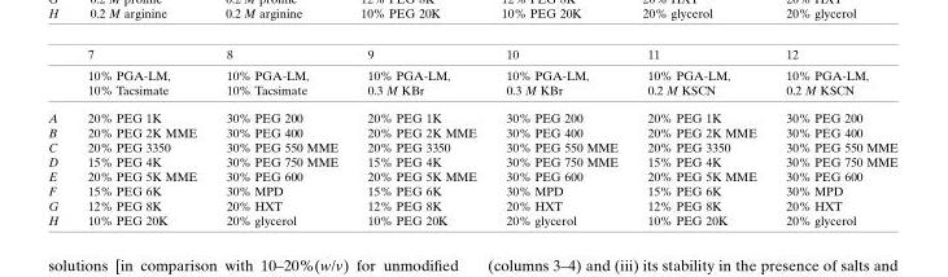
<table><thead><tr><td rowspan="2"></td><td rowspan="2">7 10% PGA-LM, 10% Tacsimate</td><td rowspan="2">8 10% PGA-LM, 10% Tacsimate</td><td rowspan="2">9 10% PGA-LM, 0.3 M KBr</td><td rowspan="2">10 10% PGA-LM, 0.3 M KBr</td><td rowspan="2">11 10% PGA-LM, 0.2 M KSCN</td><td rowspan="2">12 10% PGA-LM, 0.2 M KSCN</td></tr><tr></tr></thead><tbody><tr><td>A</td><td>20% PEG 1K</td><td>30% PEG 200</td><td>20% PEG 1K</td><td>30% PEG 200</td><td>20% PEG 1K</td><td>30% PEG 200</td></tr><tr><td>B</td><td>20% PEG 2K MME</td><td>30% PEG 400</td><td>20% PEG 2K MME</td><td>30% PEG 400</td><td>20% PEG 2K MME</td><td>30% PEG 400</td></tr><tr><td>C</td><td>20% PEG 3350</td><td>30% PEG 550 MME</td><td>20% PEG 3350</td><td>30% PEG 550 MME</td><td>20% PEG 3350</td><td>30% PEG 550 MME</td></tr><tr><td>D</td><td>15% PEG 4K</td><td>30% PEG 750 MME</td><td>15% PEG 4K</td><td>30% PEG 750 MME</td><td>15% PEG 4K</td><td>30% PEG 750 MME</td></tr><tr><td>E</td><td>20% PEG 5K MME</td><td>30% PEG 600</td><td>20% PEG 5K MME</td><td>30% PEG 600</td><td>20% PEG 5K MME</td><td>30% PEG 600</td></tr><tr><td>F</td><td>15% PEG 6K</td><td>30% MPD</td><td>15% PEG 6K</td><td>30% MPD</td><td>15% PEG 6K</td><td>30% MPD</td></tr><tr><td>G</td><td>12% PEG 8K</td><td>20% HXT</td><td>12% PEG 8K</td><td>20% HXT</td><td>12% PEG 8K</td><td>20% HXT</td></tr><tr><td>H</td><td>10% PEG 20K</td><td>20% glycerol</td><td>10% PEG 20K</td><td>20% glycerol</td><td>10% PEG 20K</td><td>20% glycerol</td></tr></tbody></table>